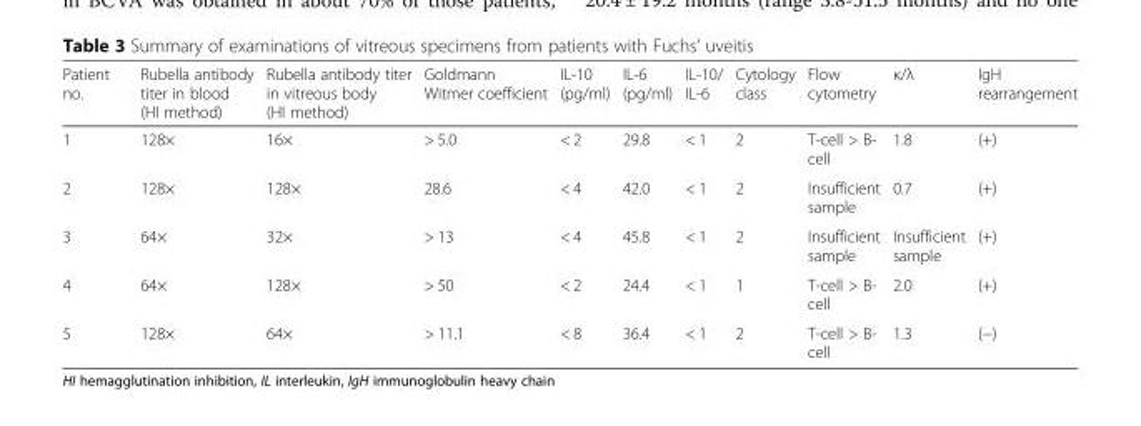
<table><thead><tr><td>Patient no.</td><td>Rubella antibody titer in blood (HI method)</td><td>Rubella antibody titer in vitreous body (HI method)</td><td>Goldmann Witmer coefficient</td><td>IL-10 (pg/ml)</td><td>IL-6 (pg/ml)</td><td>IL-10/ IL-6</td><td>Cytology class</td><td>Flow cytometry</td><td>κ/λ</td><td>IgH rearrangement</td></tr></thead><tbody><tr><td>1</td><td>128×</td><td>16×</td><td>&gt; 5.0</td><td>&lt; 2</td><td>29.8</td><td>&lt; 1</td><td>2</td><td>T-cell &gt; B- cell</td><td>1.8</td><td>(+)</td></tr><tr><td>2</td><td>128×</td><td>128×</td><td>28.6</td><td>&lt; 4</td><td>42.0</td><td>&lt; 1</td><td>2</td><td>Insufficient sample</td><td>0.7</td><td>(+)</td></tr><tr><td>3</td><td>64×</td><td>32×</td><td>&gt; 13</td><td>&lt; 4</td><td>45.8</td><td>&lt; 1</td><td>2</td><td>Insufficient sample</td><td>Insufficient sample</td><td>(+)</td></tr><tr><td>4</td><td>64×</td><td>128×</td><td>&gt; 50</td><td>&lt; 2</td><td>24.4</td><td>&lt; 1</td><td>1</td><td>T-cell &gt; B- cell</td><td>2.0</td><td>(+)</td></tr><tr><td>5</td><td>128×</td><td>64×</td><td>&gt; 11.1</td><td>&lt; 8</td><td>36.4</td><td>&lt; 1</td><td>2</td><td>T-cell &gt; B- cell</td><td>1.3</td><td>(−)</td></tr></tbody></table>